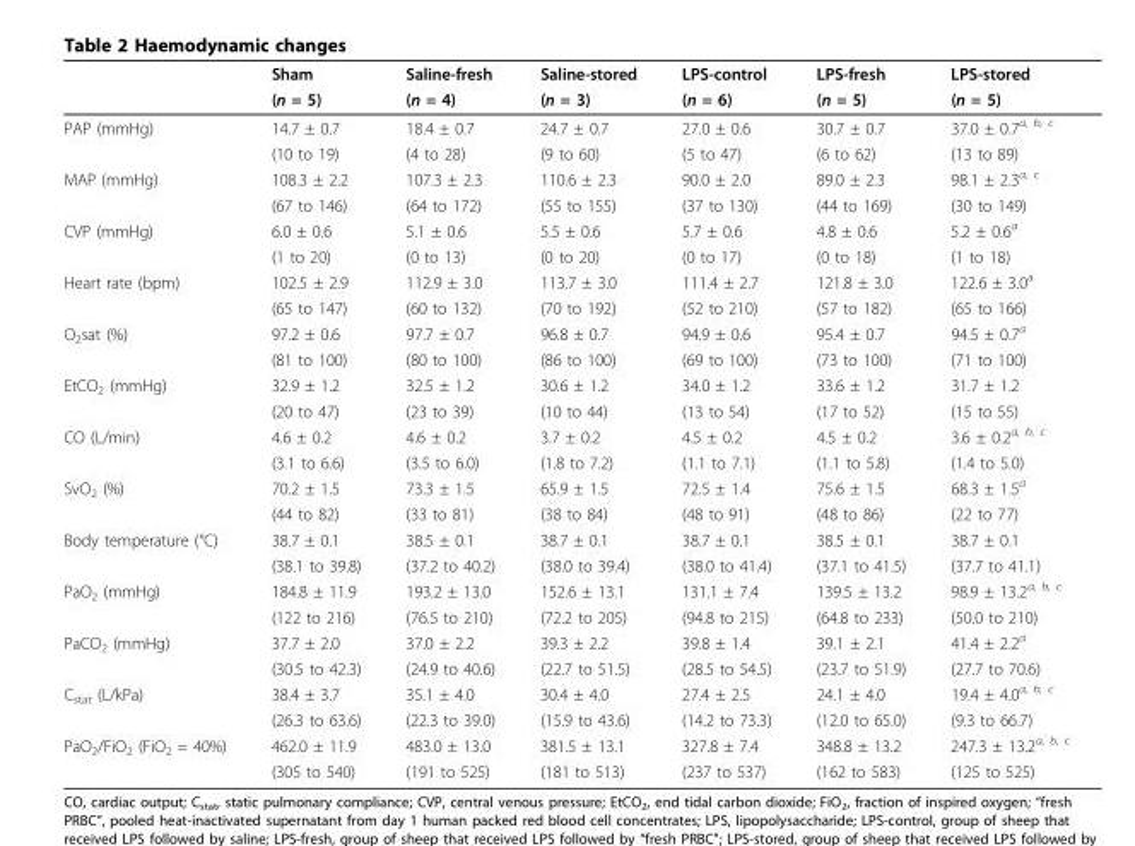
<table><thead><tr><td rowspan="2"></td><td rowspan="2">Sham (n = 5)</td><td rowspan="2">Saline-fresh (n = 4)</td><td rowspan="2">Saline-stored (n = 3)</td><td rowspan="2">LPS-control (n = 6)</td><td rowspan="2">LPS-fresh (n = 5)</td><td rowspan="2">LPS-stored (n = 5)</td></tr><tr></tr></thead><tbody><tr><td rowspan="2">PAP (mmHg)</td><td>14.7 ± 0.7</td><td>18.4 ± 0.7</td><td>24.7 ± 0.7</td><td>27.0 ± 0.6</td><td>30.7 ± 0.7</td><td>37.0 ± 0.7<sup>a, b, c</sup></td></tr><tr><td>(10 to 19)</td><td>(4 to 28)</td><td>(9 to 60)</td><td>(5 to 47)</td><td>(6 to 62)</td><td>(13 to 89)</td></tr><tr><td rowspan="2">MAP (mmHg)</td><td>108.3 ± 2.2</td><td>107.3 ± 2.3</td><td>110.6 ± 2.3</td><td>90.0 ± 2.0</td><td>89.0 ± 2.3</td><td>98.1 ± 2.3<sup>a, c</sup></td></tr><tr><td>(67 to 146)</td><td>(64 to 172)</td><td>(55 to 155)</td><td>(37 to 130)</td><td>(44 to 169)</td><td>(30 to 149)</td></tr><tr><td rowspan="2">CVP (mmHg)</td><td>6.0 ± 0.6</td><td>5.1 ± 0.6</td><td>5.5 ± 0.6</td><td>5.7 ± 0.6</td><td>4.8 ± 0.6</td><td>5.2 ± 0.6<sup>a</sup></td></tr><tr><td>(1 to 20)</td><td>(0 to 13)</td><td>(0 to 20)</td><td>(0 to 17)</td><td>(0 to 18)</td><td>(1 to 18)</td></tr><tr><td rowspan="2">Heart rate (bpm)</td><td>102.5 ± 2.9</td><td>112.9 ± 3.0</td><td>113.7 ± 3.0</td><td>111.4 ± 2.7</td><td>121.8 ± 3.0</td><td>122.6 ± 3.0<sup>a</sup></td></tr><tr><td>(65 to 147)</td><td>(60 to 132)</td><td>(70 to 192)</td><td>(52 to 210)</td><td>(57 to 182)</td><td>(65 to 166)</td></tr><tr><td rowspan="2">O<sub>2</sub>sat (%)</td><td>97.2 ± 0.6</td><td>97.7 ± 0.7</td><td>96.8 ± 0.7</td><td>94.9 ± 0.6</td><td>95.4 ± 0.7</td><td>94.5 ± 0.7<sup>a</sup></td></tr><tr><td>(81 to 100)</td><td>(80 to 100)</td><td>(86 to 100)</td><td>(69 to 100)</td><td>(73 to 100)</td><td>(71 to 100)</td></tr><tr><td rowspan="2">EtCO<sub>2</sub> (mmHg)</td><td>32.9 ± 1.2</td><td>32.5 ± 1.2</td><td>30.6 ± 1.2</td><td>34.0 ± 1.2</td><td>33.6 ± 1.2</td><td>31.7 ± 1.2</td></tr><tr><td>(20 to 47)</td><td>(23 to 39)</td><td>(10 to 44)</td><td>(13 to 54)</td><td>(17 to 52)</td><td>(15 to 55)</td></tr><tr><td rowspan="2">CO (L/min)</td><td>4.6 ± 0.2</td><td>4.6 ± 0.2</td><td>3.7 ± 0.2</td><td>4.5 ± 0.2</td><td>4.5 ± 0.2</td><td>3.6 ± 0.2<sup>a, b, c</sup></td></tr><tr><td>(3.1 to 6.6)</td><td>(3.5 to 6.0)</td><td>(1.8 to 7.2)</td><td>(1.1 to 7.1)</td><td>(1.1 to 5.8)</td><td>(1.4 to 5.0)</td></tr><tr><td rowspan="2">SvO<sub>2</sub> (%)</td><td>70.2 ± 1.5</td><td>73.3 ± 1.5</td><td>65.9 ± 1.5</td><td>72.5 ± 1.4</td><td>75.6 ± 1.5</td><td>68.3 ± 1.5<sup>a</sup></td></tr><tr><td>(44 to 82)</td><td>(33 to 81)</td><td>(38 to 84)</td><td>(48 to 91)</td><td>(48 to 86)</td><td>(22 to 77)</td></tr><tr><td rowspan="2">Body temperature (°C)</td><td>38.7 ± 0.1</td><td>38.5 ± 0.1</td><td>38.7 ± 0.1</td><td>38.7 ± 0.1</td><td>38.5 ± 0.1</td><td>38.7 ± 0.1</td></tr><tr><td>(38.1 to 39.8)</td><td>(37.2 to 40.2)</td><td>(38.0 to 39.4)</td><td>(38.0 to 41.4)</td><td>(37.1 to 41.5)</td><td>(37.7 to 41.1)</td></tr><tr><td rowspan="2">PaO<sub>2</sub> (mmHg)</td><td>184.8 ± 11.9</td><td>193.2 ± 13.0</td><td>152.6 ± 13.1</td><td>131.1 ± 7.4</td><td>139.5 ± 13.2</td><td>98.9 ± 13.2<sup>a, b, c</sup></td></tr><tr><td>(122 to 216)</td><td>(76.5 to 210)</td><td>(72.2 to 205)</td><td>(94.8 to 215)</td><td>(64.8 to 233)</td><td>(50.0 to 210)</td></tr><tr><td rowspan="2">PaCO<sub>2</sub> (mmHg)</td><td>37.7 ± 2.0</td><td>37.0 ± 2.2</td><td>39.3 ± 2.2</td><td>39.8 ± 1.4</td><td>39.1 ± 2.1</td><td>41.4 ± 2.2<sup>a</sup></td></tr><tr><td>(30.5 to 42.3)</td><td>(24.9 to 40.6)</td><td>(22.7 to 51.5)</td><td>(28.5 to 54.5)</td><td>(23.7 to 51.9)</td><td>(27.7 to 70.6)</td></tr><tr><td rowspan="2">C<sub>stat</sub> (L/kPa)</td><td>38.4 ± 3.7</td><td>35.1 ± 4.0</td><td>30.4 ± 4.0</td><td>27.4 ± 2.5</td><td>24.1 ± 4.0</td><td>19.4 ± 4.0<sup>a, b, c</sup></td></tr><tr><td>(26.3 to 63.6)</td><td>(22.3 to 39.0)</td><td>(15.9 to 43.6)</td><td>(14.2 to 73.3)</td><td>(12.0 to 65.0)</td><td>(9.3 to 66.7)</td></tr><tr><td rowspan="2">PaO<sub>2</sub>/FiO<sub>2</sub> (FiO<sub>2</sub> = 40%)</td><td>462.0 ± 11.9</td><td>483.0 ± 13.0</td><td>381.5 ± 13.1</td><td>327.8 ± 7.4</td><td>348.8 ± 13.2</td><td>247.3 ± 13.2<sup>a, b, c</sup></td></tr><tr><td>(305 to 540)</td><td>(191 to 525)</td><td>(181 to 513)</td><td>(237 to 537)</td><td>(162 to 583)</td><td>(125 to 525)</td></tr></tbody></table>